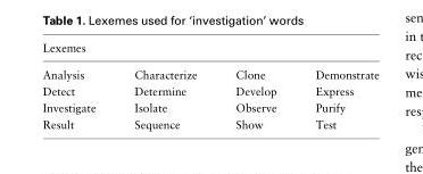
<table><thead><tr><td colspan="4">Lexemes</td></tr><tr><td>Analysis</td><td>Characterize</td><td>Clone</td><td>Demonstrate</td></tr></thead><tbody><tr><td>Detect</td><td>Determine</td><td>Develop</td><td>Express</td></tr><tr><td>Investigate</td><td>Isolate</td><td>Observe</td><td>Purify</td></tr><tr><td>Result</td><td>Sequence</td><td>Show</td><td>Test</td></tr></tbody></table>